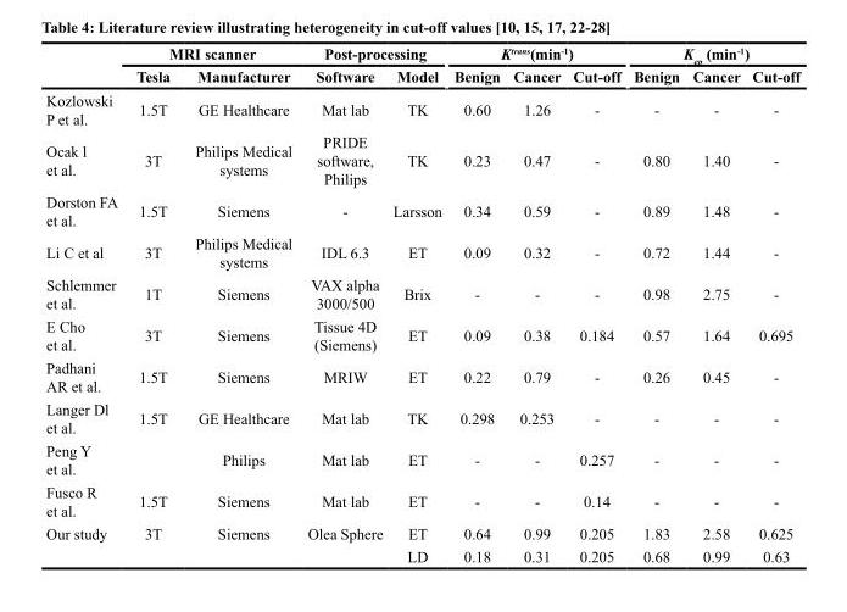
<table><thead><tr><td rowspan="2"></td><td colspan="2">MRI scanner</td><td colspan="2">Post-processing</td><td colspan="3">K<sup>trans</sup>(min<sup>-1</sup>)</td><td colspan="3">K<sub>ep</sub> (min<sup>-1</sup>)</td></tr><tr><td>Tesla</td><td>Manufacturer</td><td>Software</td><td>Model</td><td>Benign</td><td>Cancer</td><td>Cut-off</td><td>Benign</td><td>Cancer</td><td>Cut-off</td></tr></thead><tbody><tr><td>Kozlowski P et al.</td><td>1.5T</td><td>GE Healthcare</td><td>Mat lab</td><td>TK</td><td>0.60</td><td>1.26</td><td>-</td><td>-</td><td>-</td><td>-</td></tr><tr><td>Ocak l et al.</td><td>3T</td><td>Philips Medical systems</td><td>PRIDE software, Philips</td><td>TK</td><td>0.23</td><td>0.47</td><td>-</td><td>0.80</td><td>1.40</td><td>-</td></tr><tr><td>Dorston FA et al.</td><td>1.5T</td><td>Siemens</td><td>-</td><td>Larsson</td><td>0.34</td><td>0.59</td><td>-</td><td>0.89</td><td>1.48</td><td>-</td></tr><tr><td>Li C et al</td><td>3T</td><td>Philips Medical systems</td><td>IDL 6.3</td><td>ET</td><td>0.09</td><td>0.32</td><td>-</td><td>0.72</td><td>1.44</td><td>-</td></tr><tr><td>Schlemmer et al.</td><td>1T</td><td>Siemens</td><td>VAX alpha 3000/500</td><td>Brix</td><td>-</td><td>-</td><td>-</td><td>0.98</td><td>2.75</td><td>-</td></tr><tr><td>E Cho et al.</td><td>3T</td><td>Siemens</td><td>Tissue 4D (Siemens)</td><td>ET</td><td>0.09</td><td>0.38</td><td>0.184</td><td>0.57</td><td>1.64</td><td>0.695</td></tr><tr><td>Padhani AR et al.</td><td>1.5T</td><td>Siemens</td><td>MRIW</td><td>ET</td><td>0.22</td><td>0.79</td><td>-</td><td>0.26</td><td>0.45</td><td>-</td></tr><tr><td>Langer Dl et al.</td><td>1.5T</td><td>GE Healthcare</td><td>Mat lab</td><td>TK</td><td>0.298</td><td>0.253</td><td>-</td><td>-</td><td>-</td><td>-</td></tr><tr><td>Peng Y et al.</td><td></td><td>Philips</td><td>Mat lab</td><td>ET</td><td>-</td><td>-</td><td>0.257</td><td>-</td><td>-</td><td>-</td></tr><tr><td>Fusco R et al.</td><td>1.5T</td><td>Siemens</td><td>Mat lab</td><td>ET</td><td>-</td><td>-</td><td>0.14</td><td>-</td><td>-</td><td>-</td></tr><tr><td rowspan="2">Our study</td><td>3T</td><td>Siemens</td><td>Olea Sphere</td><td>ET</td><td>0.64</td><td>0.99</td><td>0.205</td><td>1.83</td><td>2.58</td><td>0.625</td></tr><tr><td></td><td></td><td></td><td>LD</td><td>0.18</td><td>0.31</td><td>0.205</td><td>0.68</td><td>0.99</td><td>0.63</td></tr></tbody></table>